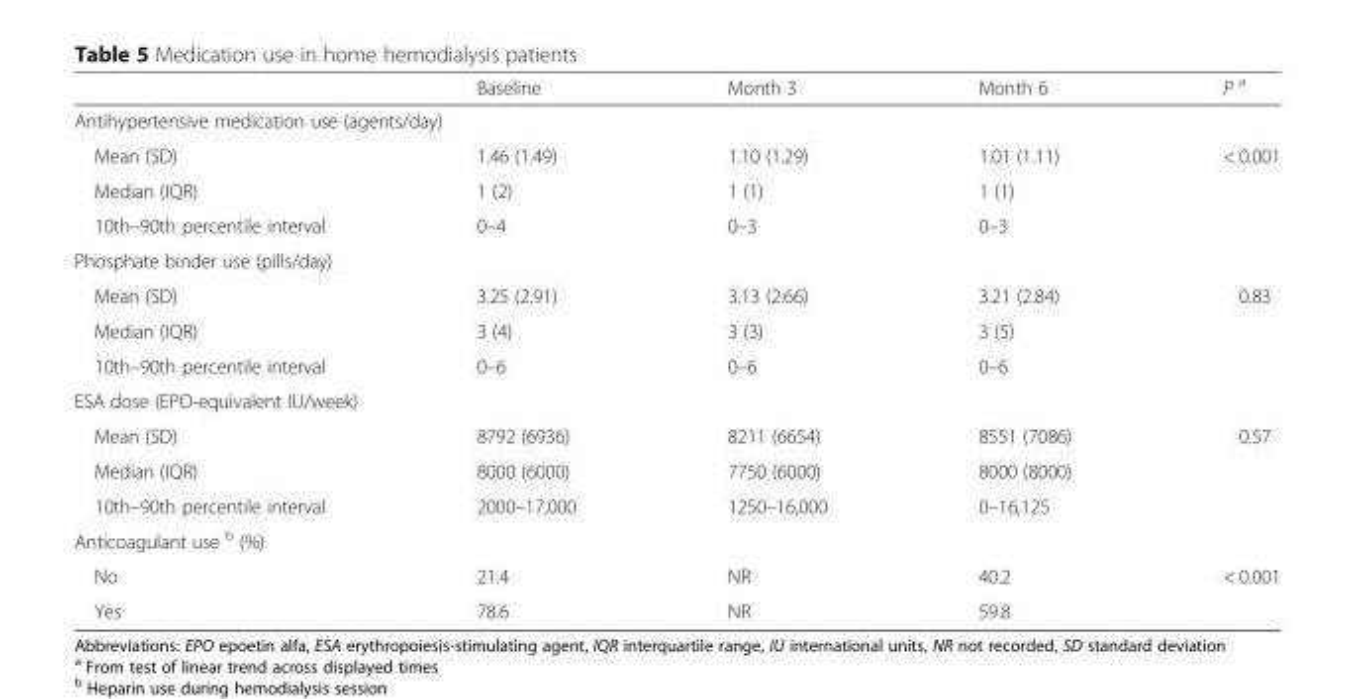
<table><thead><tr><td></td><td>Baseline</td><td>Month 3</td><td>Month 6</td><td>P <sup>a</sup></td></tr></thead><tbody><tr><td colspan="5">Antihypertensive medication use (agents/day)</td></tr><tr><td>Mean (SD)</td><td>1.46 (1.49)</td><td>1.10 (1.29)</td><td>1.01 (1.11)</td><td>&lt; 0.001</td></tr><tr><td>Median (IQR)</td><td>1 (2)</td><td>1 (1)</td><td>1 (1)</td><td></td></tr><tr><td>10th–90th percentile interval</td><td>0–4</td><td>0–3</td><td>0–3</td><td></td></tr><tr><td colspan="5">Phosphate binder use (pills/day)</td></tr><tr><td>Mean (SD)</td><td>3.25 (2.91)</td><td>3.13 (2.66)</td><td>3.21 (2.84)</td><td>0.83</td></tr><tr><td>Median (IQR)</td><td>3 (4)</td><td>3 (3)</td><td>3 (5)</td><td></td></tr><tr><td>10th–90th percentile interval</td><td>0–6</td><td>0–6</td><td>0–6</td><td></td></tr><tr><td colspan="5">ESA dose (EPO-equivalent IU/week)</td></tr><tr><td>Mean (SD)</td><td>8792 (6936)</td><td>8211 (6654)</td><td>8551 (7086)</td><td>0.57</td></tr><tr><td>Median (IQR)</td><td>8000 (6000)</td><td>7750 (6000)</td><td>8000 (8000)</td><td></td></tr><tr><td>10th–90th percentile interval</td><td>2000–17,000</td><td>1250–16,000</td><td>0–16,125</td><td></td></tr><tr><td colspan="5">Anticoagulant use <sup>b</sup> (%)</td></tr><tr><td>No</td><td>21.4</td><td>NR</td><td>40.2</td><td>&lt; 0.001</td></tr><tr><td>Yes</td><td>78.6</td><td>NR</td><td>59.8</td><td></td></tr></tbody></table>